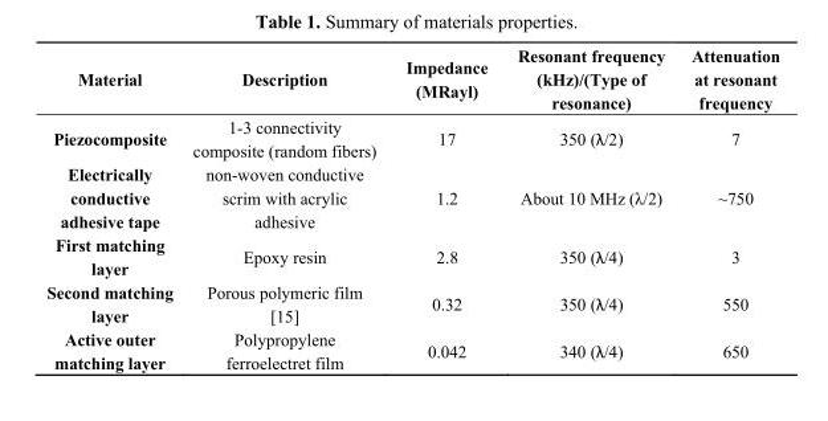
<table><thead><tr><td>Material</td><td>Description</td><td>Impedance (MRayl)</td><td>Resonant frequency (kHz)/(Type of resonance)</td><td>Attenuation at resonant frequency</td></tr></thead><tbody><tr><td>Piezocomposite</td><td>1-3 connectivity composite (random fibers)</td><td>17</td><td>350 (λ/2)</td><td>7</td></tr><tr><td>Electrically conductive adhesive tape</td><td>non-woven conductive scrim with acrylic adhesive</td><td>1.2</td><td>About 10 MHz (λ/2)</td><td>~750</td></tr><tr><td>First matching layer</td><td>Epoxy resin</td><td>2.8</td><td>350 (λ/4)</td><td>3</td></tr><tr><td>Second matching layer</td><td>Porous polymeric film [15]</td><td>0.32</td><td>350 (λ/4)</td><td>550</td></tr><tr><td>Active outer matching layer</td><td>Polypropylene ferroelectret film</td><td>0.042</td><td>340 (λ/4)</td><td>650</td></tr></tbody></table>